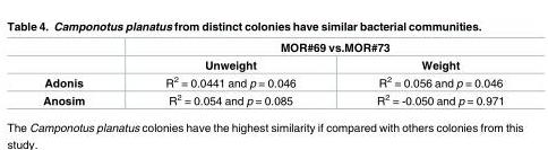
<table><thead><tr><td rowspan="2"></td><td colspan="2">MOR#69 vs.MOR#73</td></tr><tr><td>Unweight</td><td>Weight</td></tr></thead><tbody><tr><td>Adonis</td><td>R<sup>2</sup> = 0.0441 and p = 0.046</td><td>R<sup>2</sup> = 0.056 and p = 0.046</td></tr><tr><td>Anosim</td><td>R<sup>2</sup> = 0.054 and p = 0.085</td><td>R<sup>2</sup> = -0.050 and p = 0.971</td></tr></tbody></table>